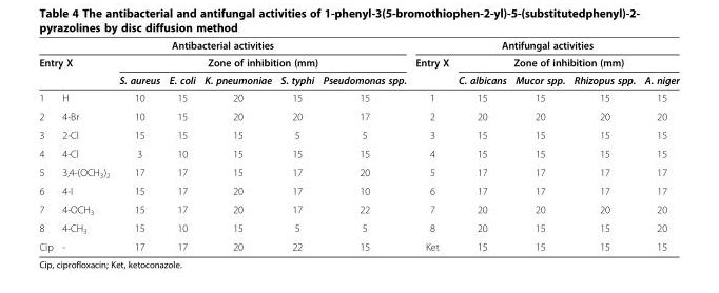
<table><thead><tr><td colspan="7">Antibacterial activities</td><td colspan="5">Antifungal activities</td></tr><tr><td colspan="2">Entry X</td><td colspan="5">Zone of inhibition (mm)</td><td rowspan="2">Entry X</td><td colspan="4">Zone of inhibition (mm)</td></tr><tr><td></td><td></td><td>S. aureus</td><td>E. coli</td><td>K. pneumoniae</td><td>S. typhi</td><td>Pseudomonas spp.</td><td>C. albicans</td><td>Mucor spp.</td><td>Rhizopus spp.</td><td>A. niger</td></tr></thead><tbody><tr><td>1</td><td>H</td><td>10</td><td>15</td><td>20</td><td>15</td><td>15</td><td>1</td><td>15</td><td>15</td><td>15</td><td>15</td></tr><tr><td>2</td><td>4-Br</td><td>10</td><td>15</td><td>20</td><td>20</td><td>17</td><td>2</td><td>20</td><td>20</td><td>20</td><td>20</td></tr><tr><td>3</td><td>2-Cl</td><td>15</td><td>15</td><td>15</td><td>5</td><td>5</td><td>3</td><td>15</td><td>15</td><td>15</td><td>15</td></tr><tr><td>4</td><td>4-Cl</td><td>3</td><td>10</td><td>15</td><td>15</td><td>15</td><td>4</td><td>15</td><td>15</td><td>15</td><td>15</td></tr><tr><td>5</td><td>3,4-(OCH<sub>3</sub>)<sub>2</sub></td><td>17</td><td>17</td><td>15</td><td>17</td><td>20</td><td>5</td><td>17</td><td>17</td><td>17</td><td>17</td></tr><tr><td>6</td><td>4-I</td><td>15</td><td>17</td><td>20</td><td>17</td><td>10</td><td>6</td><td>17</td><td>17</td><td>17</td><td>17</td></tr><tr><td>7</td><td>4-OCH<sub>3</sub></td><td>15</td><td>17</td><td>20</td><td>17</td><td>22</td><td>7</td><td>20</td><td>20</td><td>20</td><td>20</td></tr><tr><td>8</td><td>4-CH<sub>3</sub></td><td>15</td><td>10</td><td>15</td><td>5</td><td>5</td><td>8</td><td>20</td><td>15</td><td>15</td><td>20</td></tr><tr><td>Cip</td><td>-</td><td>17</td><td>17</td><td>20</td><td>22</td><td>15</td><td>Ket</td><td>15</td><td>15</td><td>15</td><td>15</td></tr></tbody></table>